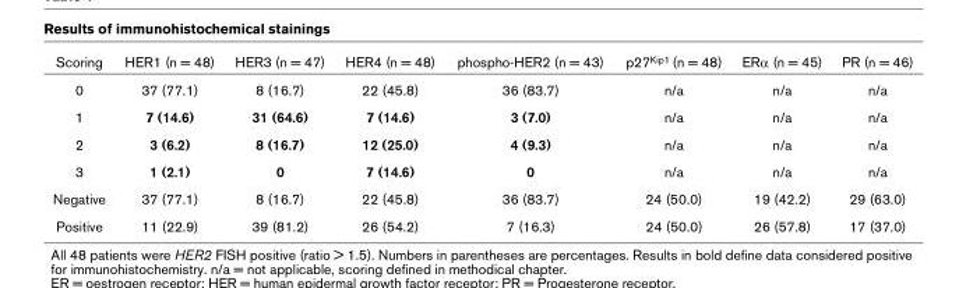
<table><thead><tr><td>Scoring</td><td>HER1 (n = 48)</td><td>HER3 (n = 47)</td><td>HER4 (n = 48)</td><td>phospho-HER2 (n = 43)</td><td>p27<sup>Kip1</sup> (n = 48)</td><td>ERα (n = 45)</td><td>PR (n = 46)</td></tr></thead><tbody><tr><td>0</td><td>37 (77.1)</td><td>8 (16.7)</td><td>22 (45.8)</td><td>36 (83.7)</td><td>n/a</td><td>n/a</td><td>n/a</td></tr><tr><td>1</td><td>7 (14.6)</td><td>31 (64.6)</td><td>7 (14.6)</td><td>3 (7.0)</td><td>n/a</td><td>n/a</td><td>n/a</td></tr><tr><td>2</td><td>3 (6.2)</td><td>8 (16.7)</td><td>12 (25.0)</td><td>4 (9.3)</td><td>n/a</td><td>n/a</td><td>n/a</td></tr><tr><td>3</td><td>1 (2.1)</td><td>0</td><td>7 (14.6)</td><td>0</td><td>n/a</td><td>n/a</td><td>n/a</td></tr><tr><td>Negative</td><td>37 (77.1)</td><td>8 (16.7)</td><td>22 (45.8)</td><td>36 (83.7)</td><td>24 (50.0)</td><td>19 (42.2)</td><td>29 (63.0)</td></tr><tr><td>Positive</td><td>11 (22.9)</td><td>39 (81.2)</td><td>26 (54.2)</td><td>7 (16.3)</td><td>24 (50.0)</td><td>26 (57.8)</td><td>17 (37.0)</td></tr></tbody></table>